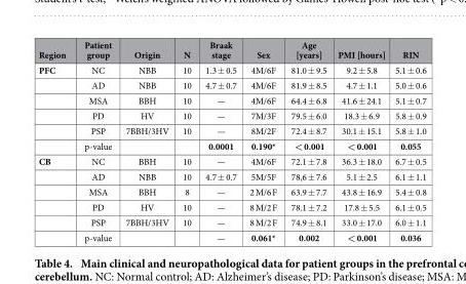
<table><thead><tr><td>Region</td><td>Patient group</td><td>Origin</td><td>N</td><td>Braak stage</td><td>Sex</td><td>Age [years]</td><td>PMI [hours]</td><td>RIN</td></tr></thead><tbody><tr><td rowspan="6">PFC</td><td>NC</td><td>NBB</td><td>10</td><td>1.3 ± 0.5</td><td>4M/6F</td><td>81.0 ± 9.5</td><td>9.2 ± 5.8</td><td>5.1 ± 0.6</td></tr><tr><td>AD</td><td>NBB</td><td>10</td><td>4.7 ± 0.7</td><td>4M/6F</td><td>81.9 ± 8.5</td><td>4.7 ± 1.1</td><td>5.0 ± 0.6</td></tr><tr><td>MSA</td><td>BBH</td><td>10</td><td>—</td><td>4M/6F</td><td>64.4 ± 6.8</td><td>41.6 ± 24.1</td><td>5.1 ± 0.7</td></tr><tr><td>PD</td><td>HV</td><td>10</td><td>—</td><td>7M/3F</td><td>79.5 ± 6.0</td><td>18.3 ± 6.9</td><td>5.8 ± 0.9</td></tr><tr><td>PSP</td><td>7BBH/3HV</td><td>10</td><td>—</td><td>8M/2F</td><td>72.4 ± 8.7</td><td>30.1 ± 15.1</td><td>5.8 ± 1.0</td></tr><tr><td>p-value</td><td></td><td></td><td>0.0001</td><td>0.190*</td><td>&lt; 0.001</td><td>&lt; 0.001</td><td>0.055</td></tr><tr><td rowspan="6">CB</td><td>NC</td><td>BBH</td><td>10</td><td>—</td><td>4M/6F</td><td>72.1 ± 7.8</td><td>36.3 ± 18.0</td><td>6.7 ± 0.5</td></tr><tr><td>AD</td><td>NBB</td><td>10</td><td>4.7 ± 0.7</td><td>5M/5F</td><td>78,6 ± 7.6</td><td>5.1 ± 2.5</td><td>6.1 ± 1.1</td></tr><tr><td>MSA</td><td>BBH</td><td>8</td><td>—</td><td>2 M/6 F</td><td>63.9 ± 7.7</td><td>43.8 ± 16.9</td><td>5.4 ± 0.8</td></tr><tr><td>PD</td><td>HV</td><td>10</td><td>—</td><td>8 M/2 F</td><td>78.1 ± 7.2</td><td>17.8 ± 5.5</td><td>6.1 ± 0.5</td></tr><tr><td>PSP</td><td>7BBH/3HV</td><td>10</td><td>—</td><td>8 M/2 F</td><td>74.9 ± 8.1</td><td>33.0 ± 17.0</td><td>6.0 ± 1.1</td></tr><tr><td>p-value</td><td></td><td></td><td>—</td><td>0.061*</td><td>0.002</td><td>&lt; 0.001</td><td>0.036</td></tr></tbody></table>